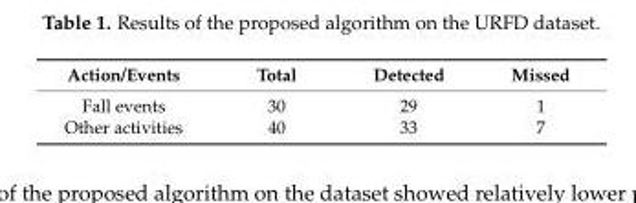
<table><thead><tr><td>Action/Events</td><td>Total</td><td>Detected</td><td>Missed</td></tr></thead><tbody><tr><td>Fall events</td><td>30</td><td>29</td><td>1</td></tr><tr><td>Other activities</td><td>40</td><td>33</td><td>7</td></tr></tbody></table>